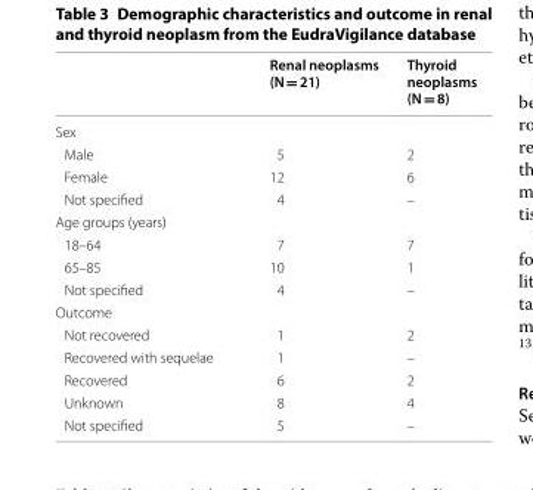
<table><thead><tr><td></td><td>Renal neoplasms (N = 21)</td><td>Thyroid neoplasms (N = 8)</td></tr></thead><tbody><tr><td colspan="3">Sex</td></tr><tr><td>Male</td><td>5</td><td>2</td></tr><tr><td>Female</td><td>12</td><td>6</td></tr><tr><td>Not specified</td><td>4</td><td>–</td></tr><tr><td colspan="3">Age groups (years)</td></tr><tr><td>18–64</td><td>7</td><td>7</td></tr><tr><td>65–85</td><td>10</td><td>1</td></tr><tr><td>Not specified</td><td>4</td><td>–</td></tr><tr><td colspan="3">Outcome</td></tr><tr><td>Not recovered</td><td>1</td><td>2</td></tr><tr><td>Recovered with sequelae</td><td>1</td><td>–</td></tr><tr><td>Recovered</td><td>6</td><td>2</td></tr><tr><td>Unknown</td><td>8</td><td>4</td></tr><tr><td>Not specified</td><td>5</td><td>–</td></tr></tbody></table>